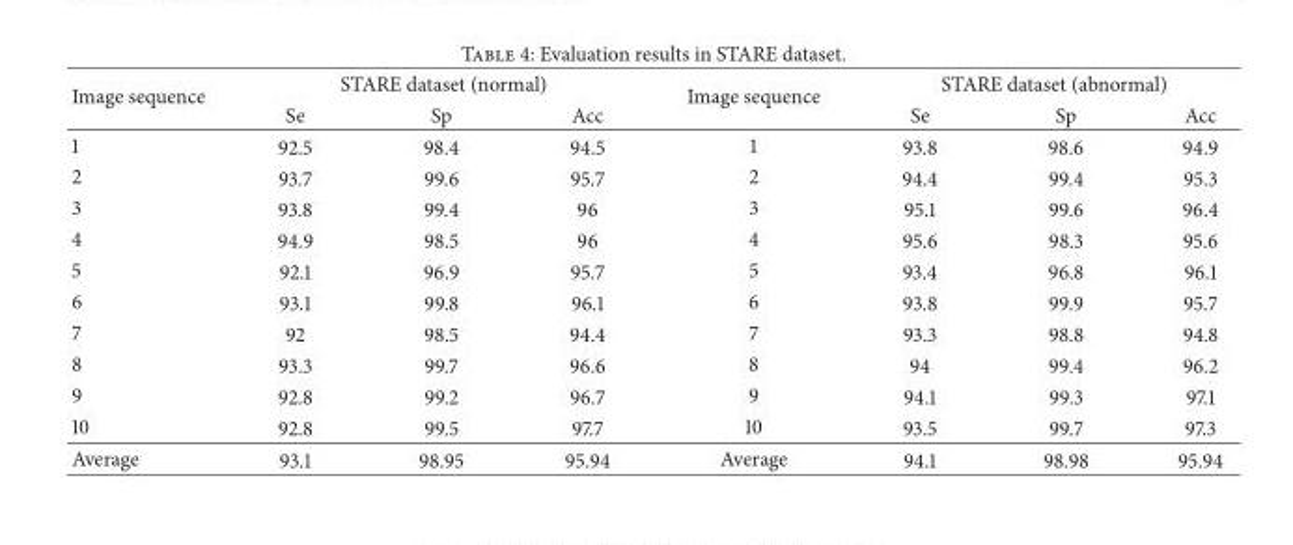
<table><thead><tr><td rowspan="2">Image sequence</td><td colspan="3">STARE dataset (normal)</td><td rowspan="2">Image sequence</td><td colspan="3">STARE dataset (abnormal)</td></tr><tr><td>Se</td><td>Sp</td><td>Acc</td><td>Se</td><td>Sp</td><td>Acc</td></tr></thead><tbody><tr><td>1</td><td>92.5</td><td>98.4</td><td>94.5</td><td>1</td><td>93.8</td><td>98.6</td><td>94.9</td></tr><tr><td>2</td><td>93.7</td><td>99.6</td><td>95.7</td><td>2</td><td>94.4</td><td>99.4</td><td>95.3</td></tr><tr><td>3</td><td>93.8</td><td>99.4</td><td>96</td><td>3</td><td>95.1</td><td>99.6</td><td>96.4</td></tr><tr><td>4</td><td>94.9</td><td>98.5</td><td>96</td><td>4</td><td>95.6</td><td>98.3</td><td>95.6</td></tr><tr><td>5</td><td>92.1</td><td>96.9</td><td>95.7</td><td>5</td><td>93.4</td><td>96.8</td><td>96.1</td></tr><tr><td>6</td><td>93.1</td><td>99.8</td><td>96.1</td><td>6</td><td>93.8</td><td>99.9</td><td>95.7</td></tr><tr><td>7</td><td>92</td><td>98.5</td><td>94.4</td><td>7</td><td>93.3</td><td>98.8</td><td>94.8</td></tr><tr><td>8</td><td>93.3</td><td>99.7</td><td>96.6</td><td>8</td><td>94</td><td>99.4</td><td>96.2</td></tr><tr><td>9</td><td>92.8</td><td>99.2</td><td>96.7</td><td>9</td><td>94.1</td><td>99.3</td><td>97.1</td></tr><tr><td>10</td><td>92.8</td><td>99.5</td><td>97.7</td><td>10</td><td>93.5</td><td>99.7</td><td>97.3</td></tr><tr><td>Average</td><td>93.1</td><td>98.95</td><td>95.94</td><td>Average</td><td>94.1</td><td>98.98</td><td>95.94</td></tr></tbody></table>